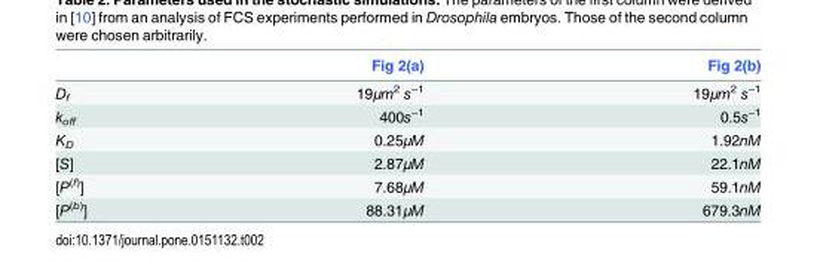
<table><thead><tr><td></td><td>Fig 2(a)</td><td>Fig 2(b)</td></tr></thead><tbody><tr><td>D<sub>f</sub></td><td>19μm<sup>2</sup> s<sup>−1</sup></td><td>19μm<sup>2</sup> s<sup>−1</sup></td></tr><tr><td>k<sub>off</sub></td><td>400s<sup>−1</sup></td><td>0.5s<sup>−1</sup></td></tr><tr><td>K<sub>D</sub></td><td>0.25μM</td><td>1.92nM</td></tr><tr><td>[S]</td><td>2.87μM</td><td>22.1nM</td></tr><tr><td>[P<sup>(f)</sup>]</td><td>7.68μM</td><td>59.1nM</td></tr><tr><td>[P<sup>(b)</sup>]</td><td>88.31μM</td><td>679.3nM</td></tr></tbody></table>